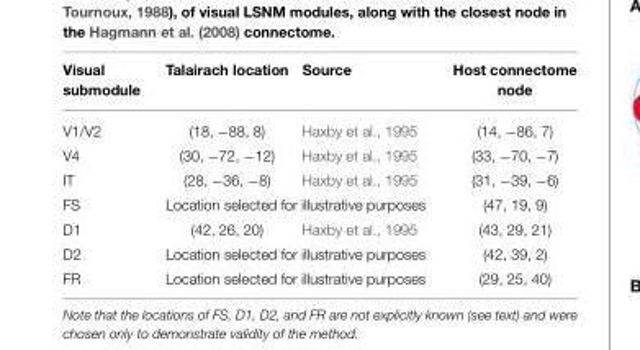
<table><thead><tr><td>Visual submodule</td><td>Talairach location</td><td>Source</td><td>Host connectome node</td></tr></thead><tbody><tr><td>V1/V2</td><td>(18, −88, 8)</td><td>Haxby et al., 1995</td><td>(14, −86, 7)</td></tr><tr><td>V4</td><td>(30, −72, −12)</td><td>Haxby et al., 1995</td><td>(33, −70, −7)</td></tr><tr><td>IT</td><td>(28, −36, −8)</td><td>Haxby et al., 1995</td><td>(31, −39, −6)</td></tr><tr><td>FS</td><td colspan="2">Location selected for illustrative purposes</td><td>(47, 19, 9)</td></tr><tr><td>D1</td><td>(42, 26, 20)</td><td>Haxby et al., 1995</td><td>(43, 29, 21)</td></tr><tr><td>D2</td><td colspan="2">Location selected for illustrative purposes</td><td>(42, 39, 2)</td></tr><tr><td>FR</td><td colspan="2">Location selected for illustrative purposes</td><td>(29, 25, 40)</td></tr></tbody></table>